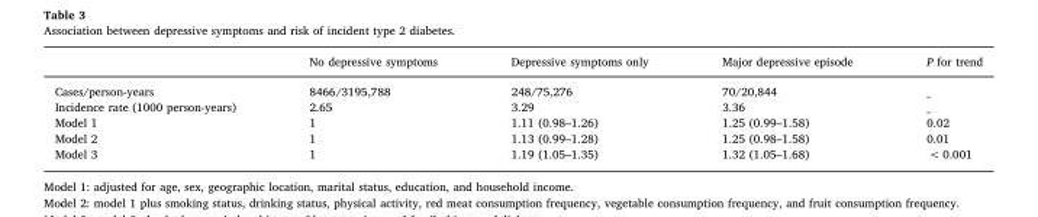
<table><thead><tr><td></td><td>No depressive symptoms</td><td>Depressive symptoms only</td><td>Major depressive episode</td><td>P for trend</td></tr></thead><tbody><tr><td>Cases/person-years</td><td>8466/3195,788</td><td>248/75,276</td><td>70/20,844</td><td>_</td></tr><tr><td>Incidence rate (1000 person-years)</td><td>2.65</td><td>3.29</td><td>3.36</td><td>_</td></tr><tr><td>Model 1</td><td>1</td><td>1.11 (0.98–1.26)</td><td>1.25 (0.99–1.58)</td><td>0.02</td></tr><tr><td>Model 2</td><td>1</td><td>1.13 (0.99–1.28)</td><td>1.25 (0.98–1.58)</td><td>0.01</td></tr><tr><td>Model 3</td><td>1</td><td>1.19 (1.05–1.35)</td><td>1.32 (1.05–1.68)</td><td>&lt; 0.001</td></tr></tbody></table>